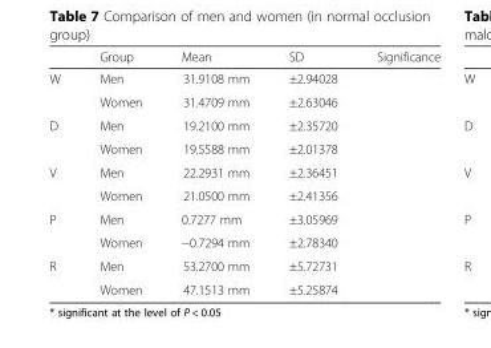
<table><thead><tr><td></td><td>Group</td><td>Mean</td><td>SD</td><td>Significance</td></tr></thead><tbody><tr><td rowspan="2">W</td><td>Men</td><td>31.9108 mm</td><td>±2.94028</td><td rowspan="2"></td></tr><tr><td>Women</td><td>31.4709 mm</td><td>±2.63046</td></tr><tr><td rowspan="2">D</td><td>Men</td><td>19.2100 mm</td><td>±2.35720</td><td rowspan="2"></td></tr><tr><td>Women</td><td>19.5588 mm</td><td>±2.01378</td></tr><tr><td rowspan="2">V</td><td>Men</td><td>22.2931 mm</td><td>±2.36451</td><td rowspan="2"></td></tr><tr><td>Women</td><td>21.0500 mm</td><td>±2.41356</td></tr><tr><td rowspan="2">P</td><td>Men</td><td>0.7277 mm</td><td>±3.05969</td><td rowspan="2"></td></tr><tr><td>Women</td><td>−0.7294 mm</td><td>±2.78340</td></tr><tr><td rowspan="2">R</td><td>Men</td><td>53.2700 mm</td><td>±5.72731</td><td rowspan="2"></td></tr><tr><td>Women</td><td>47.1513 mm</td><td>±5.25874</td></tr></tbody></table>